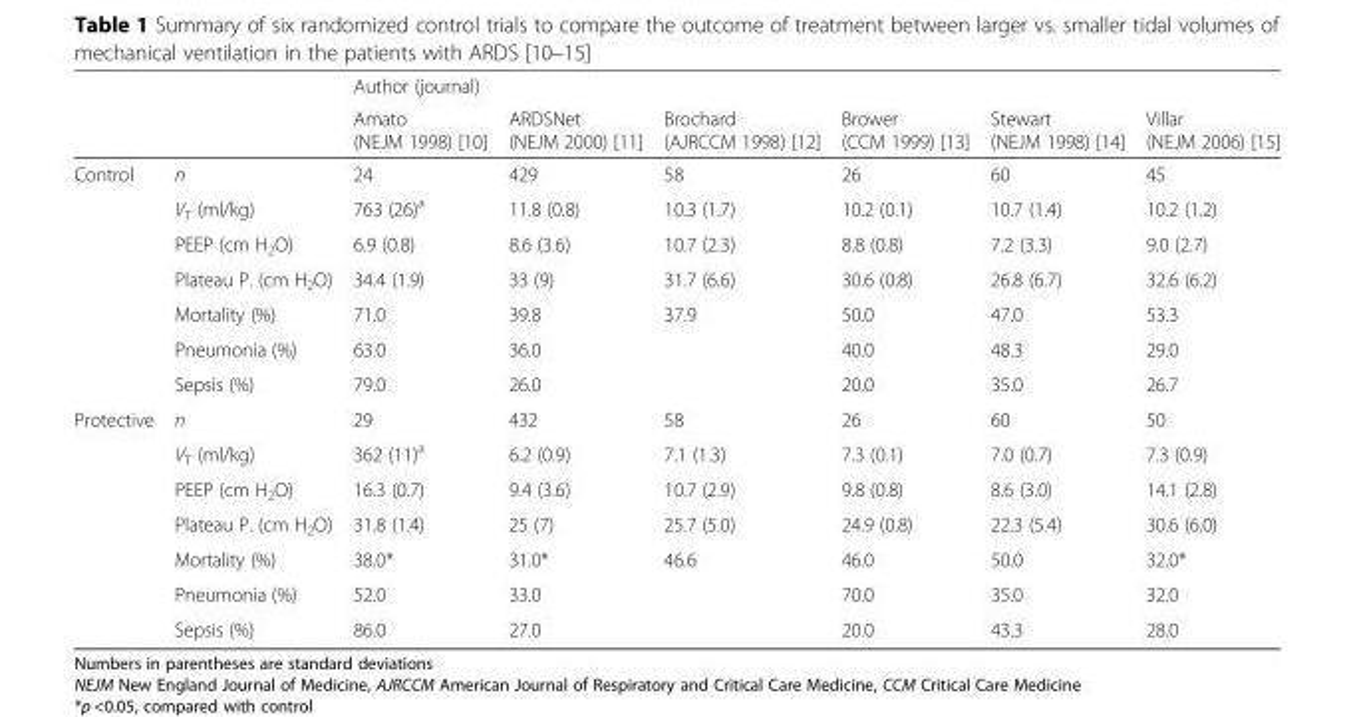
<table><thead><tr><td rowspan="2"></td><td rowspan="2"></td><td colspan="6">Author (journal)</td></tr><tr><td>Amato (NEJM 1998) [10]</td><td>ARDSNet (NEJM 2000) [11]</td><td>Brochard (AJRCCM 1998) [12]</td><td>Brower (CCM 1999) [13]</td><td>Stewart (NEJM 1998) [14]</td><td>Villar (NEJM 2006) [15]</td></tr></thead><tbody><tr><td rowspan="7">Control</td><td>n</td><td>24</td><td>429</td><td>58</td><td>26</td><td>60</td><td>45</td></tr><tr><td>V<sub>T</sub> (ml/kg)</td><td>763 (26)<sup>a</sup></td><td>11.8 (0.8)</td><td>10.3 (1.7)</td><td>10.2 (0.1)</td><td>10.7 (1.4)</td><td>10.2 (1.2)</td></tr><tr><td>PEEP (cm H<sub>2</sub>O)</td><td>6.9 (0.8)</td><td>8.6 (3.6)</td><td>10.7 (2.3)</td><td>8.8 (0.8)</td><td>7.2 (3.3)</td><td>9.0 (2.7)</td></tr><tr><td>Plateau P. (cm H<sub>2</sub>O)</td><td>34.4 (1.9)</td><td>33 (9)</td><td>31.7 (6.6)</td><td>30.6 (0.8)</td><td>26.8 (6.7)</td><td>32.6 (6.2)</td></tr><tr><td>Mortality (%)</td><td>71.0</td><td>39.8</td><td>37.9</td><td>50.0</td><td>47.0</td><td>53.3</td></tr><tr><td>Pneumonia (%)</td><td>63.0</td><td>36.0</td><td></td><td>40.0</td><td>48.3</td><td>29.0</td></tr><tr><td>Sepsis (%)</td><td>79.0</td><td>26.0</td><td></td><td>20.0</td><td>35.0</td><td>26.7</td></tr><tr><td rowspan="7">Protective</td><td>n</td><td>29</td><td>432</td><td>58</td><td>26</td><td>60</td><td>50</td></tr><tr><td>V<sub>T</sub> (ml/kg)</td><td>362 (11)<sup>a</sup></td><td>6.2 (0.9)</td><td>7.1 (1.3)</td><td>7.3 (0.1)</td><td>7.0 (0.7)</td><td>7.3 (0.9)</td></tr><tr><td>PEEP (cm H<sub>2</sub>O)</td><td>16.3 (0.7)</td><td>9.4 (3.6)</td><td>10.7 (2.9)</td><td>9.8 (0.8)</td><td>8.6 (3.0)</td><td>14.1 (2.8)</td></tr><tr><td>Plateau P. (cm H<sub>2</sub>O)</td><td>31.8 (1.4)</td><td>25 (7)</td><td>25.7 (5.0)</td><td>24.9 (0.8)</td><td>22.3 (5.4)</td><td>30.6 (6.0)</td></tr><tr><td>Mortality (%)</td><td>38.0*</td><td>31.0*</td><td>46.6</td><td>46.0</td><td>50.0</td><td>32.0*</td></tr><tr><td>Pneumonia (%)</td><td>52.0</td><td>33.0</td><td></td><td>70.0</td><td>35.0</td><td>32.0</td></tr><tr><td>Sepsis (%)</td><td>86.0</td><td>27.0</td><td></td><td>20.0</td><td>43.3</td><td>28.0</td></tr></tbody></table>